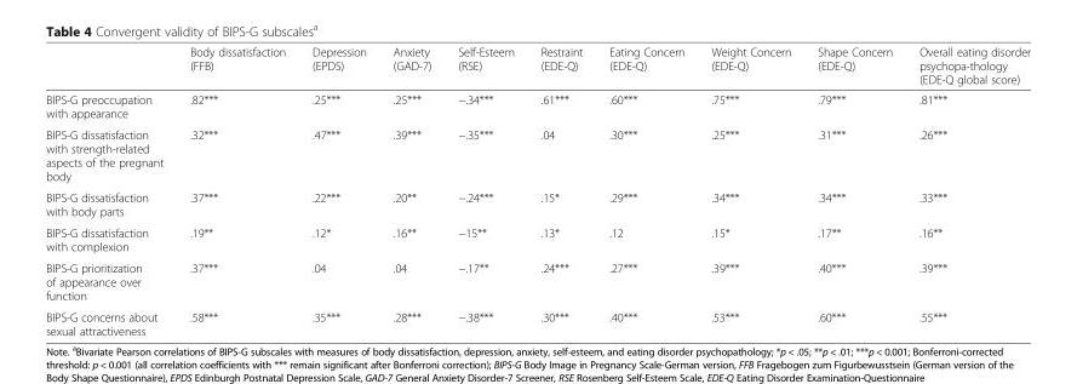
<table><thead><tr><td></td><td>Body dissatisfaction (FFB)</td><td>Depression (EPDS)</td><td>Anxiety (GAD-7)</td><td>Self-Esteem (RSE)</td><td>Restraint (EDE-Q)</td><td>Eating Concern (EDE-Q)</td><td>Weight Concern (EDE-Q)</td><td>Shape Concern (EDE-Q)</td><td>Overall eating disorder psychopa-thology (EDE-Q global score)</td></tr></thead><tbody><tr><td>BIPS-G preoccupation with appearance</td><td>.82***</td><td>.25***</td><td>.25***</td><td>−.34***</td><td>.61***</td><td>.60***</td><td>.75***</td><td>.79***</td><td>.81***</td></tr><tr><td>BIPS-G dissatisfaction with strength-related aspects of the pregnant body</td><td>.32***</td><td>.47***</td><td>.39***</td><td>−.35***</td><td>.04</td><td>.30***</td><td>.25***</td><td>.31***</td><td>.26***</td></tr><tr><td>BIPS-G dissatisfaction with body parts</td><td>.37***</td><td>.22***</td><td>.20**</td><td>−.24***</td><td>.15*</td><td>.29***</td><td>.34***</td><td>.34***</td><td>.33***</td></tr><tr><td>BIPS-G dissatisfaction with complexion</td><td>.19**</td><td>.12*</td><td>.16**</td><td>−15**</td><td>.13*</td><td>.12</td><td>.15*</td><td>.17**</td><td>.16**</td></tr><tr><td>BIPS-G prioritization of appearance over function</td><td>.37***</td><td>.04</td><td>.04</td><td>−.17**</td><td>.24***</td><td>.27***</td><td>.39***</td><td>.40***</td><td>.39***</td></tr><tr><td>BIPS-G concerns about sexual attractiveness</td><td>.58***</td><td>.35***</td><td>.28***</td><td>−.38***</td><td>.30***</td><td>.40***</td><td>.53***</td><td>.60***</td><td>.55***</td></tr></tbody></table>